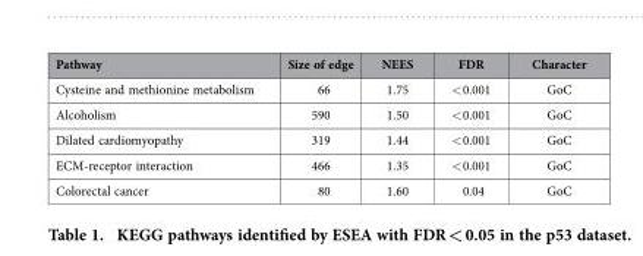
<table><thead><tr><td>Pathway</td><td>Size of edge</td><td>NEES</td><td>FDR</td><td>Character</td></tr></thead><tbody><tr><td>Cysteine and methionine metabolism</td><td>66</td><td>1.75</td><td>&lt; 0.001</td><td>GoC</td></tr><tr><td>Alcoholism</td><td>590</td><td>1.50</td><td>&lt; 0.001</td><td>GoC</td></tr><tr><td>Dilated cardiomyopathy</td><td>319</td><td>1.44</td><td>&lt; 0.001</td><td>GoC</td></tr><tr><td>ECM-receptor interaction</td><td>466</td><td>1.35</td><td>&lt; 0.001</td><td>GoC</td></tr><tr><td>Colorectal cancer</td><td>80</td><td>1.60</td><td>0.04</td><td>GoC</td></tr></tbody></table>